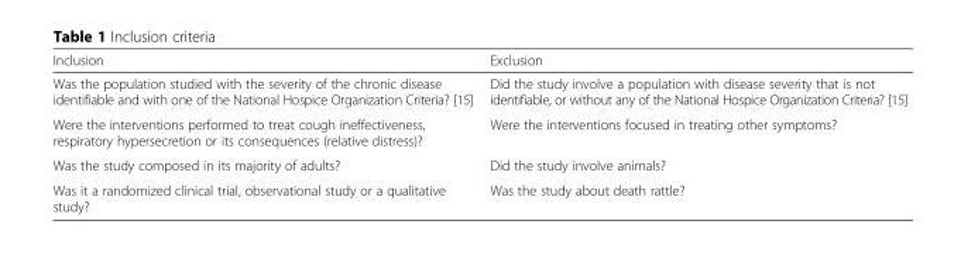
<table><thead><tr><td>Inclusion</td><td>Exclusion</td></tr></thead><tbody><tr><td>Was the population studied with the severity of the chronic disease identifiable and with one of the National Hospice Organization Criteria? [15]</td><td>Did the study involve a population with disease severity that is not identifiable, or without any of the National Hospice Organization Criteria? [15]</td></tr><tr><td>Were the interventions performed to treat cough ineffectiveness, respiratory hypersecretion or its consequences (relative distress)?</td><td>Were the interventions focused in treating other symptoms?</td></tr><tr><td>Was the study composed in its majority of adults?</td><td>Did the study involve animals?</td></tr><tr><td>Was it a randomized clinical trial, observational study or a qualitative study?</td><td>Was the study about death rattle?</td></tr></tbody></table>